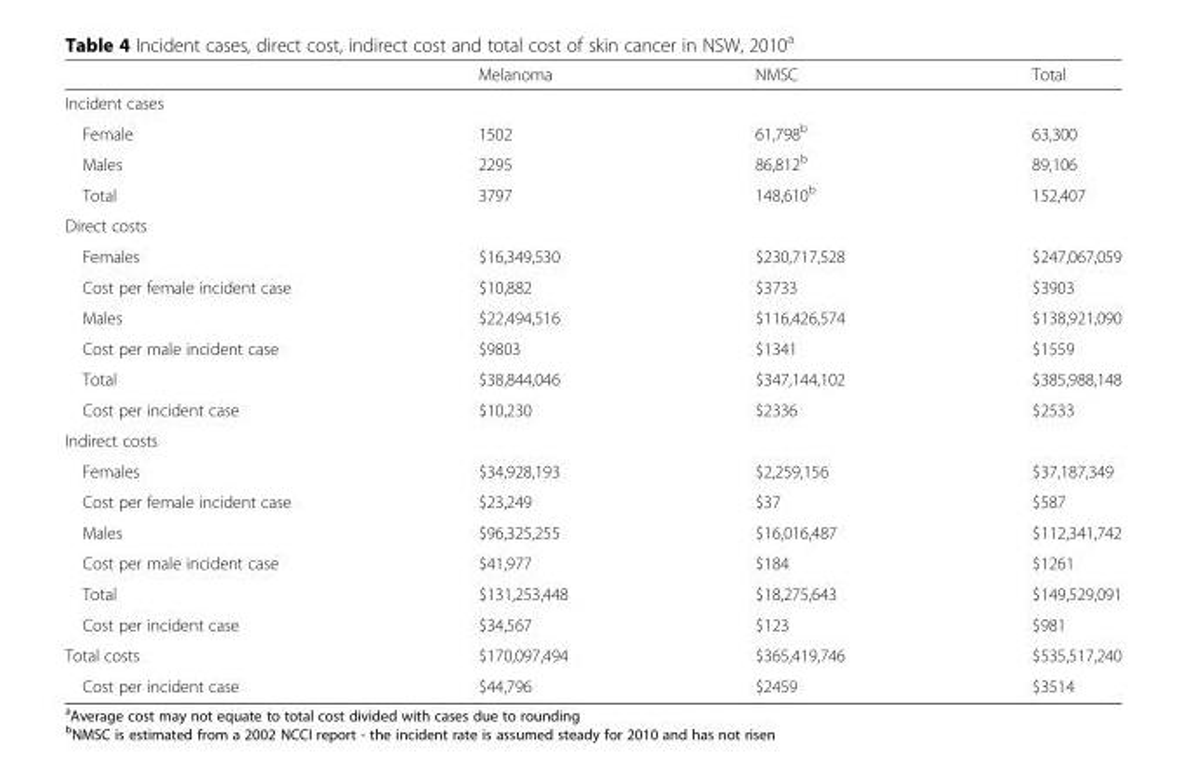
<table><thead><tr><td></td><td>Melanoma</td><td>NMSC</td><td>Total</td></tr></thead><tbody><tr><td colspan="4">Incident cases</td></tr><tr><td>Female</td><td>1502</td><td>61,798<sup>b</sup></td><td>63,300</td></tr><tr><td>Males</td><td>2295</td><td>86,812<sup>b</sup></td><td>89,106</td></tr><tr><td>Total</td><td>3797</td><td>148,610<sup>b</sup></td><td>152,407</td></tr><tr><td colspan="4">Direct costs</td></tr><tr><td>Females</td><td>$16,349,530</td><td>$230,717,528</td><td>$247,067,059</td></tr><tr><td>Cost per female incident case</td><td>$10,882</td><td>$3733</td><td>$3903</td></tr><tr><td>Males</td><td>$22,494,516</td><td>$116,426,574</td><td>$138,921,090</td></tr><tr><td>Cost per male incident case</td><td>$9803</td><td>$1341</td><td>$1559</td></tr><tr><td>Total</td><td>$38,844,046</td><td>$347,144,102</td><td>$385,988,148</td></tr><tr><td>Cost per incident case</td><td>$10,230</td><td>$2336</td><td>$2533</td></tr><tr><td colspan="4">Indirect costs</td></tr><tr><td>Females</td><td>$34,928,193</td><td>$2,259,156</td><td>$37,187,349</td></tr><tr><td>Cost per female incident case</td><td>$23,249</td><td>$37</td><td>$587</td></tr><tr><td>Males</td><td>$96,325,255</td><td>$16,016,487</td><td>$112,341,742</td></tr><tr><td>Cost per male incident case</td><td>$41,977</td><td>$184</td><td>$1261</td></tr><tr><td>Total</td><td>$131,253,448</td><td>$18,275,643</td><td>$149,529,091</td></tr><tr><td>Cost per incident case</td><td>$34,567</td><td>$123</td><td>$981</td></tr><tr><td>Total costs</td><td>$170,097,494</td><td>$365,419,746</td><td>$535,517,240</td></tr><tr><td>Cost per incident case</td><td>$44,796</td><td>$2459</td><td>$3514</td></tr></tbody></table>